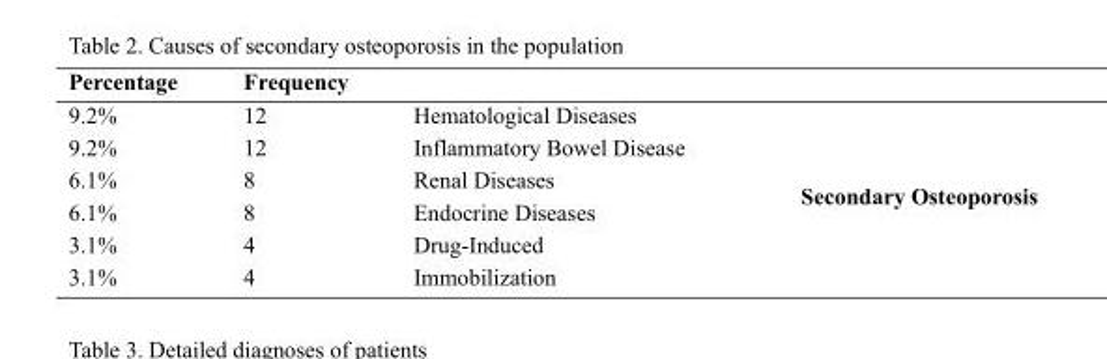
<table><thead><tr><td>Percentage</td><td>Frequency</td><td></td><td></td></tr></thead><tbody><tr><td>9.2%</td><td>12</td><td>Hematological Diseases</td><td rowspan="6">Secondary Osteoporosis</td></tr><tr><td>9.2%</td><td>12</td><td>Inflammatory Bowel Disease</td></tr><tr><td>6.1%</td><td>8</td><td>Renal Diseases</td></tr><tr><td>6.1%</td><td>8</td><td>Endocrine Diseases</td></tr><tr><td>3.1%</td><td>4</td><td>Drug-Induced</td></tr><tr><td>3.1%</td><td>4</td><td>Immobilization</td></tr></tbody></table>